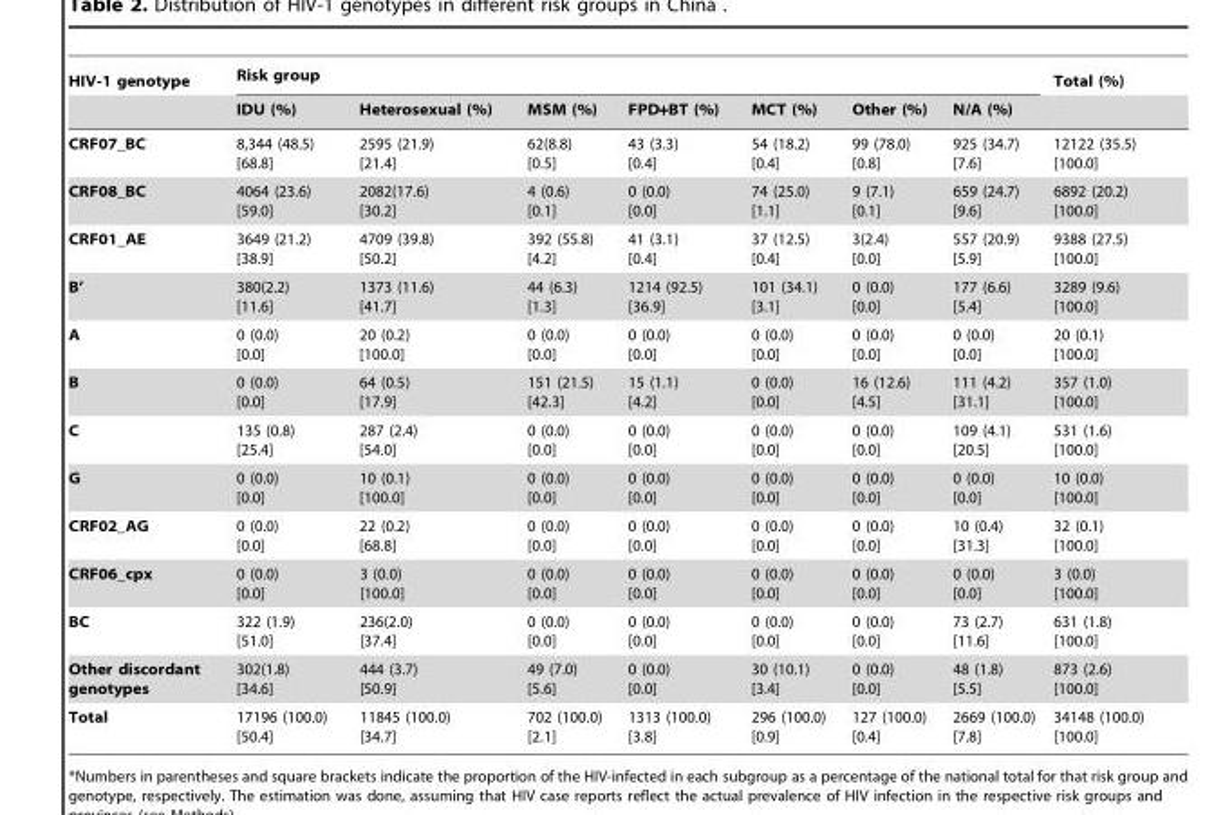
<table><thead><tr><td rowspan="2">HIV-1 genotype</td><td colspan="7">Risk group</td><td rowspan="2">Total (%)</td></tr><tr><td>IDU (%)</td><td>Heterosexual (%)</td><td>MSM (%)</td><td>FPD+BT (%)</td><td>MCT (%)</td><td>Other (%)</td><td>N/A (%)</td></tr></thead><tbody><tr><td>CRF07_BC</td><td>8,344 (48.5) [68.8]</td><td>2595 (21.9) [21.4]</td><td>62(8.8) [0.5]</td><td>43 (3.3) [0.4]</td><td>54 (18.2) [0.4]</td><td>99 (78.0) [0.8]</td><td>925 (34.7) [7.6]</td><td>12122 (35.5) [100.0]</td></tr><tr><td>CRF08_BC</td><td>4064 (23.6) [59.0]</td><td>2082(17.6) [30.2]</td><td>4 (0.6) [0.1]</td><td>0 (0.0) [0.0]</td><td>74 (25.0) [1.1]</td><td>9 (7.1) [0.1]</td><td>659 (24.7) [9.6]</td><td>6892 (20.2) [100.0]</td></tr><tr><td>CRF01_AE</td><td>3649 (21.2) [38.9]</td><td>4709 (39.8) [50.2]</td><td>392 (55.8) [4.2]</td><td>41 (3.1) [0.4]</td><td>37 (12.5) [0.4]</td><td>3(2.4) [0.0]</td><td>557 (20.9) [5.9]</td><td>9388 (27.5) [100.0]</td></tr><tr><td>B’</td><td>380(2.2) [11.6]</td><td>1373 (11.6) [41.7]</td><td>44 (6.3) [1.3]</td><td>1214 (92.5) [36.9]</td><td>101 (34.1) [3.1]</td><td>0 (0.0) [0.0]</td><td>177 (6.6) [5.4]</td><td>3289 (9.6) [100.0]</td></tr><tr><td>A</td><td>0 (0.0) [0.0]</td><td>20 (0.2) [100.0]</td><td>0 (0.0) [0.0]</td><td>0 (0.0) [0.0]</td><td>0 (0.0) [0.0]</td><td>0 (0.0) [0.0]</td><td>0 (0.0) [0.0]</td><td>20 (0.1) [100.0]</td></tr><tr><td>B</td><td>0 (0.0) [0.0]</td><td>64 (0.5) [17.9]</td><td>151 (21.5) [42.3]</td><td>15 (1.1) [4.2]</td><td>0 (0.0) [0.0]</td><td>16 (12.6) [4.5]</td><td>111 (4.2) [31.1]</td><td>357 (1.0) [100.0]</td></tr><tr><td>C</td><td>135 (0.8) [25.4]</td><td>287 (2.4) [54.0]</td><td>0 (0.0) [0.0]</td><td>0 (0.0) [0.0]</td><td>0 (0.0) [0.0]</td><td>0 (0.0) [0.0]</td><td>109 (4.1) [20.5]</td><td>531 (1.6) [100.0]</td></tr><tr><td>G</td><td>0 (0.0) [0.0]</td><td>10 (0.1) [100.0]</td><td>0 (0.0) [0.0]</td><td>0 (0.0) [0.0]</td><td>0 (0.0) [0.0]</td><td>0 (0.0) [0.0]</td><td>0 (0.0) [0.0]</td><td>10 (0.0) [100.0]</td></tr><tr><td>CRF02_AG</td><td>0 (0.0) [0.0]</td><td>22 (0.2) [68.8]</td><td>0 (0.0) [0.0]</td><td>0 (0.0) [0.0]</td><td>0 (0.0) [0.0]</td><td>0 (0.0) [0.0]</td><td>10 (0.4) [31.3]</td><td>32 (0.1) [100.0]</td></tr><tr><td>CRF06_cpx</td><td>0 (0.0) [0.0]</td><td>3 (0.0) [100.0]</td><td>0 (0.0) [0.0]</td><td>0 (0.0) [0.0]</td><td>0 (0.0) [0.0]</td><td>0 (0.0) [0.0]</td><td>0 (0.0) [0.0]</td><td>3 (0.0) [100.0]</td></tr><tr><td>BC</td><td>322 (1.9) [51.0]</td><td>236(2.0) [37.4]</td><td>0 (0.0) [0.0]</td><td>0 (0.0) [0.0]</td><td>0 (0.0) [0.0]</td><td>0 (0.0) [0.0]</td><td>73 (2.7) [11.6]</td><td>631 (1.8) [100.0]</td></tr><tr><td>Other discordant genotypes</td><td>302(1.8) [34.6]</td><td>444 (3.7) [50.9]</td><td>49 (7.0) [5.6]</td><td>0 (0.0) [0.0]</td><td>30 (10.1) [3.4]</td><td>0 (0.0) [0.0]</td><td>48 (1.8) [5.5]</td><td>873 (2.6) [100.0]</td></tr><tr><td>Total</td><td>17196 (100.0) [50.4]</td><td>11845 (100.0) [34.7]</td><td>702 (100.0) [2.1]</td><td>1313 (100.0) [3.8]</td><td>296 (100.0) [0.9]</td><td>127 (100.0) [0.4]</td><td>2669 (100.0) [7.8]</td><td>34148 (100.0) [100.0]</td></tr></tbody></table>